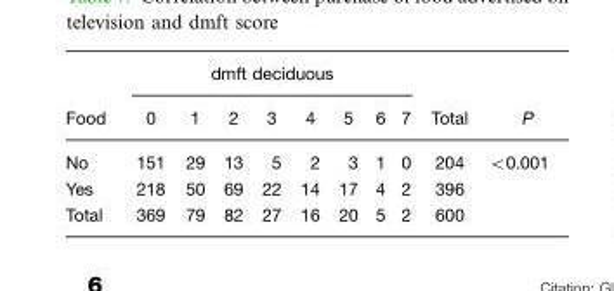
<table><thead><tr><td rowspan="2">Food</td><td colspan="8">dmft deciduous</td><td rowspan="2">Total</td><td rowspan="2">P</td></tr><tr><td>0</td><td>1</td><td>2</td><td>3</td><td>4</td><td>5</td><td>6</td><td>7</td></tr></thead><tbody><tr><td>No</td><td>151</td><td>29</td><td>13</td><td>5</td><td>2</td><td>3</td><td>1</td><td>0</td><td>204</td><td>&lt;0.001</td></tr><tr><td>Yes</td><td>218</td><td>50</td><td>69</td><td>22</td><td>14</td><td>17</td><td>4</td><td>2</td><td>396</td><td></td></tr><tr><td>Total</td><td>369</td><td>79</td><td>82</td><td>27</td><td>16</td><td>20</td><td>5</td><td>2</td><td>600</td><td></td></tr></tbody></table>